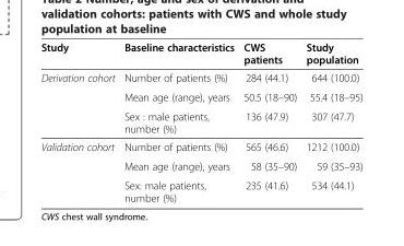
<table><thead><tr><td>Study</td><td>Baseline characteristics</td><td>CWS patients</td><td>Study population</td></tr></thead><tbody><tr><td rowspan="3">Derivation cohort</td><td>Number of patients (%)</td><td>284 (44.1)</td><td>644 (100.0)</td></tr><tr><td>Mean age (range), years</td><td>50.5 (18–90)</td><td>55.4 (18–95)</td></tr><tr><td>Sex : male patients, number (%)</td><td>136 (47.9)</td><td>307 (47.7)</td></tr><tr><td rowspan="3">Validation cohort</td><td>Number of patients (%)</td><td>565 (46.6)</td><td>1212 (100.0)</td></tr><tr><td>Mean age (range), years</td><td>58 (35–90)</td><td>59 (35–93)</td></tr><tr><td>Sex: male patients, number (%)</td><td>235 (41.6)</td><td>534 (44.1)</td></tr></tbody></table>